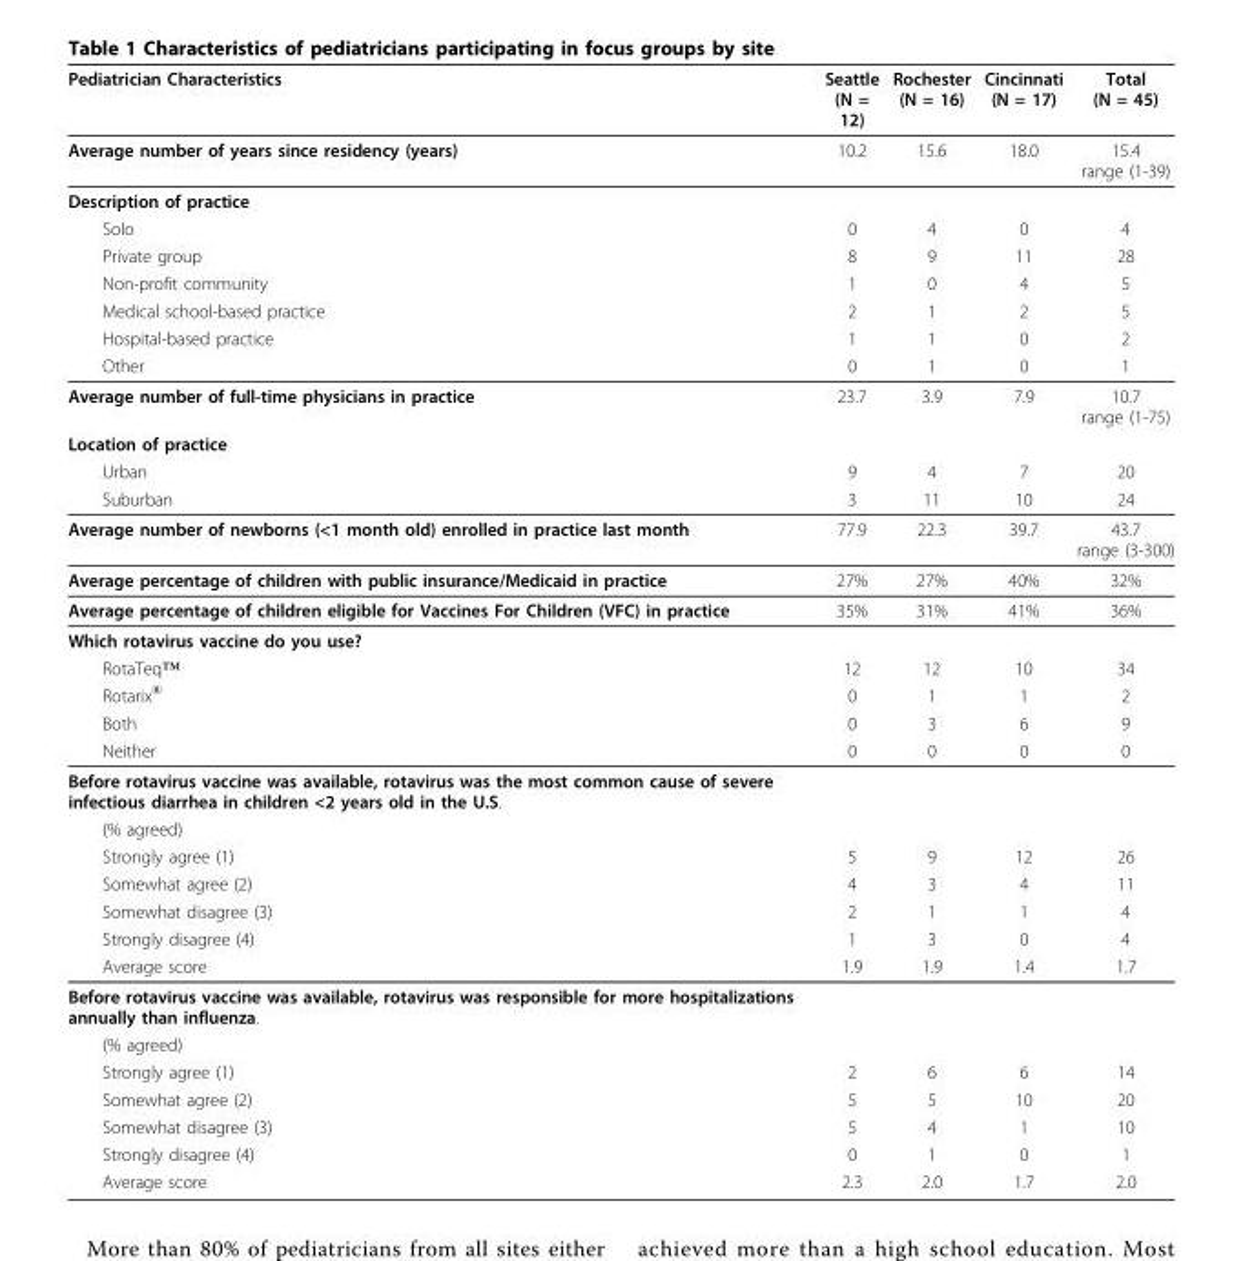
<table><thead><tr><td>Pediatrician Characteristics</td><td>Seattle (N = 12)</td><td>Rochester (N = 16)</td><td>Cincinnati (N = 17)</td><td>Total (N = 45)</td></tr></thead><tbody><tr><td>Average number of years since residency (years)</td><td>10.2</td><td>15.6</td><td>18.0</td><td>15.4 range (1-39)</td></tr><tr><td colspan="5">Description of practice</td></tr><tr><td>Solo</td><td>0</td><td>4</td><td>0</td><td>4</td></tr><tr><td>Private group</td><td>8</td><td>9</td><td>11</td><td>28</td></tr><tr><td>Non-profit community</td><td>1</td><td>0</td><td>4</td><td>5</td></tr><tr><td>Medical school-based practice</td><td>2</td><td>1</td><td>2</td><td>5</td></tr><tr><td>Hospital-based practice</td><td>1</td><td>1</td><td>0</td><td>2</td></tr><tr><td>Other</td><td>0</td><td>1</td><td>0</td><td>1</td></tr><tr><td>Average number of full-time physicians in practice</td><td>23.7</td><td>3.9</td><td>7.9</td><td>10.7 range (1-75)</td></tr><tr><td colspan="5">Location of practice</td></tr><tr><td>Urban</td><td>9</td><td>4</td><td>7</td><td>20</td></tr><tr><td>Suburban</td><td>3</td><td>11</td><td>10</td><td>24</td></tr><tr><td>Average number of newborns (&lt;1 month old) enrolled in practice last month</td><td>77.9</td><td>22.3</td><td>39.7</td><td>43.7 range (3-300)</td></tr><tr><td>Average percentage of children with public insurance/Medicaid in practice</td><td>27%</td><td>27%</td><td>40%</td><td>32%</td></tr><tr><td>Average percentage of children eligible for Vaccines For Children (VFC) in practice</td><td>35%</td><td>31%</td><td>41%</td><td>36%</td></tr><tr><td colspan="5">Which rotavirus vaccine do you use?</td></tr><tr><td>RotaTeq™</td><td>12</td><td>12</td><td>10</td><td>34</td></tr><tr><td>Rotarix<sup>®</sup></td><td>0</td><td>1</td><td>1</td><td>2</td></tr><tr><td>Both</td><td>0</td><td>3</td><td>6</td><td>9</td></tr><tr><td>Neither</td><td>0</td><td>0</td><td>0</td><td>0</td></tr><tr><td colspan="5">Before rotavirus vaccine was available, rotavirus was the most common cause of severe infectious diarrhea in children &lt;2 years old in the U.S.</td></tr><tr><td colspan="5">(% agreed)</td></tr><tr><td>Strongly agree (1)</td><td>5</td><td>9</td><td>12</td><td>26</td></tr><tr><td>Somewhat agree (2)</td><td>4</td><td>3</td><td>4</td><td>11</td></tr><tr><td>Somewhat disagree (3)</td><td>2</td><td>1</td><td>1</td><td>4</td></tr><tr><td>Strongly disagree (4)</td><td>1</td><td>3</td><td>0</td><td>4</td></tr><tr><td>Average score</td><td>1.9</td><td>1.9</td><td>1.4</td><td>1.7</td></tr><tr><td colspan="5">Before rotavirus vaccine was available, rotavirus was responsible for more hospitalizations annually than influenza.</td></tr><tr><td colspan="5">(% agreed)</td></tr><tr><td>Strongly agree (1)</td><td>2</td><td>6</td><td>6</td><td>14</td></tr><tr><td>Somewhat agree (2)</td><td>5</td><td>5</td><td>10</td><td>20</td></tr><tr><td>Somewhat disagree (3)</td><td>5</td><td>4</td><td>1</td><td>10</td></tr><tr><td>Strongly disagree (4)</td><td>0</td><td>1</td><td>0</td><td>1</td></tr><tr><td>Average score</td><td>2.3</td><td>2.0</td><td>1.7</td><td>2.0</td></tr></tbody></table>